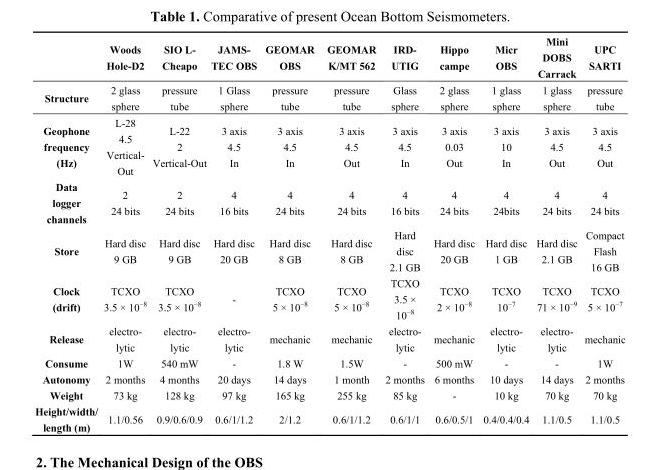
<table><thead><tr><td rowspan="2">Structure</td><td rowspan="2">Woods Hole-D2 2 glass sphere</td><td rowspan="2">SIO L- Cheapo pressure tube</td><td rowspan="2">JAMS- TEC OBS 1 Glass sphere</td><td rowspan="2">GEOMAR OBS pressure tube</td><td rowspan="2">GEOMAR K/MT 562 pressure tube</td><td rowspan="2">IRD- UTIG Glass sphere</td><td rowspan="2">Hippo campe 2 glass sphere</td><td rowspan="2">Micr OBS 1 glass sphere</td><td rowspan="2">Mini DOBS Carrack 1 glass sphere</td><td rowspan="2">UPC SARTI pressure tube</td></tr><tr></tr></thead><tbody><tr><td>Geophone frequency (Hz)</td><td>L-28 4.5 Vertical- Out</td><td>L-22 2 Vertical-Out</td><td>3 axis 4.5 In</td><td>3 axis 4.5 In</td><td>3 axis 4.5 Out</td><td>3 axis 4.5 In</td><td>3 axis 0.03 Out</td><td>3 axis 10 In</td><td>3 axis 4.5 Out</td><td>3 axis 4.5 Out</td></tr><tr><td>Data logger channels</td><td>2 24 bits</td><td>2 24 bits</td><td>4 16 bits</td><td>4 24 bits</td><td>4 24 bits</td><td>4 16 bits</td><td>4 24 bits</td><td>4 24bits</td><td>4 24 bits</td><td>4 24 bits</td></tr><tr><td>Store</td><td>Hard disc 9 GB</td><td>Hard disc 9 GB</td><td>Hard disc 20 GB</td><td>Hard disc 8 GB</td><td>Hard disc 8 GB</td><td>Hard disc 2.1 GB</td><td>Hard disc 20 GB</td><td>Hard disc 1 GB</td><td>Hard disc 2.1 GB</td><td>Compact Flash 16 GB</td></tr><tr><td>Clock (drift)</td><td>TCXO 3.5 × 10<sup>−8</sup></td><td>TCXO 3.5 × 10<sup>−8</sup></td><td>-</td><td>TCXO 5 × 10<sup>−8</sup></td><td>TCXO 5 × 10<sup>−8</sup></td><td>TCXO 3.5 × 10<sup>−8</sup></td><td>TCXO 2 × 10<sup>−8</sup></td><td>TCXO 10<sup>−7</sup></td><td>TCXO 71 × 10<sup>−9</sup></td><td>TCXO 5 × 10<sup>−7</sup></td></tr><tr><td>Release</td><td>electro- lytic</td><td>electro- lytic</td><td>electro- lytic</td><td>mechanic</td><td>mechanic</td><td>electro- lytic</td><td>mechanic</td><td>electro- lytic</td><td>electro- lytic</td><td>mechanic</td></tr><tr><td>Consume</td><td>1W</td><td>540 mW</td><td>-</td><td>1.8 W</td><td>1.5W</td><td>-</td><td>500 mW</td><td>-</td><td>-</td><td>1W</td></tr><tr><td>Autonomy</td><td>2 months</td><td>4 months</td><td>20 days</td><td>14 days</td><td>1 month</td><td>2 months</td><td>6 months</td><td>10 days</td><td>14 days</td><td>2 months</td></tr><tr><td>Weight</td><td>73 kg</td><td>128 kg</td><td>97 kg</td><td>165 kg</td><td>255 kg</td><td>85 kg</td><td>-</td><td>10 kg</td><td>70 kg</td><td>70 kg</td></tr><tr><td>Height/width/ length (m)</td><td>1.1/0.56</td><td>0.9/0.6/0.9</td><td>0.6/1/1.2</td><td>2/1.2</td><td>0.6/1/1.2</td><td>0.6/1/1</td><td>0.6/0.5/1</td><td>0.4/0.4/0.4</td><td>1.1/0.5</td><td>1.1/0.5</td></tr></tbody></table>